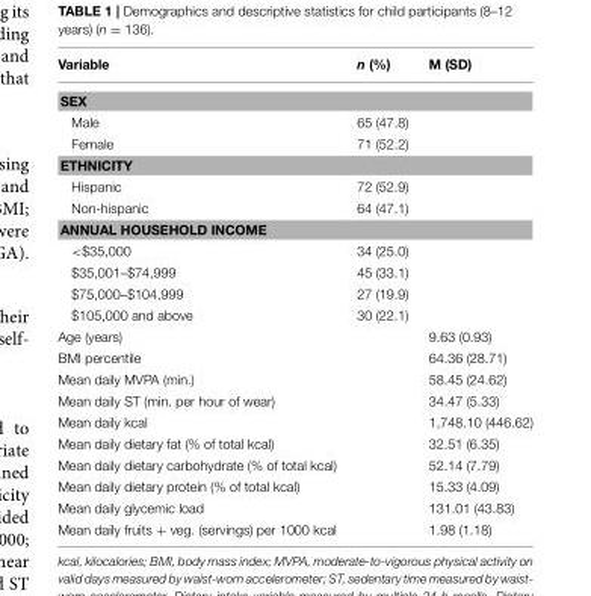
<table><thead><tr><td>Variable</td><td>n (%)</td><td>M (SD)</td></tr></thead><tbody><tr><td colspan="3">SEX</td></tr><tr><td>Male</td><td>65 (47.8)</td><td></td></tr><tr><td>Female</td><td>71 (52.2)</td><td></td></tr><tr><td colspan="3">ETHNICITY</td></tr><tr><td>Hispanic</td><td>72 (52.9)</td><td></td></tr><tr><td>Non-hispanic</td><td>64 (47.1)</td><td></td></tr><tr><td colspan="3">ANNUAL HOUSEHOLD INCOME</td></tr><tr><td>&lt;$35,000</td><td>34 (25.0)</td><td></td></tr><tr><td>$35,001–$74,999</td><td>45 (33.1)</td><td></td></tr><tr><td>$75,000–$104,999</td><td>27 (19.9)</td><td></td></tr><tr><td>$105,000 and above</td><td>30 (22.1)</td><td></td></tr><tr><td>Age (years)</td><td></td><td>9.63 (0.93)</td></tr><tr><td>BMI percentile</td><td></td><td>64.36 (28.71)</td></tr><tr><td>Mean daily MVPA (min.)</td><td></td><td>58.45 (24.62)</td></tr><tr><td>Mean daily ST (min. per hour of wear)</td><td></td><td>34.47 (5.33)</td></tr><tr><td>Mean daily kcal</td><td></td><td>1,748.10 (446.62)</td></tr><tr><td>Mean daily dietary fat (% of total kcal)</td><td></td><td>32.51 (6.35)</td></tr><tr><td>Mean daily dietary carbohydrate (% of total kcal)</td><td></td><td>52.14 (7.79)</td></tr><tr><td>Mean daily dietary protein (% of total kcal)</td><td></td><td>15.33 (4.09)</td></tr><tr><td>Mean daily glycemic load</td><td></td><td>131.01 (43.83)</td></tr><tr><td>Mean daily fruits + veg. (servings) per 1000 kcal</td><td></td><td>1.98 (1.18)</td></tr></tbody></table>